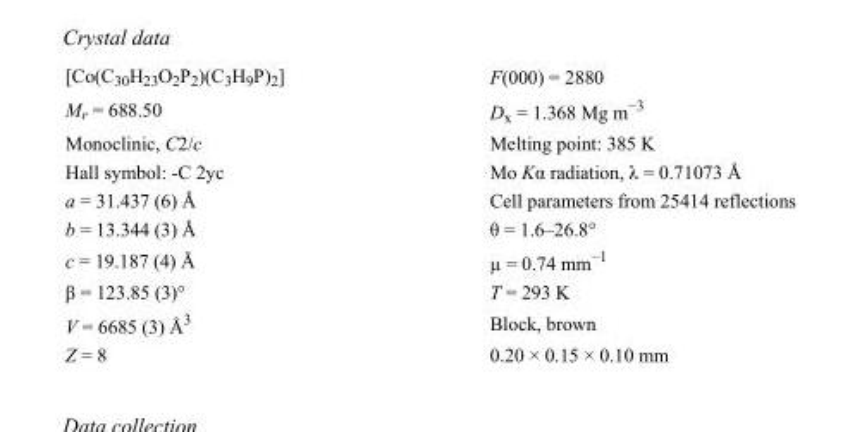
<table><tbody><tr><td>[Co(C<sub>30</sub>H<sub>23</sub>O<sub>2</sub>P<sub>2</sub>)(C<sub>3</sub>H<sub>9</sub>P)<sub>2</sub>]</td><td>F(000) = 2880</td></tr><tr><td>M<sub>r</sub> = 688.50</td><td>D<sub>x</sub> = 1.368 Mg m<sup>−3</sup></td></tr><tr><td>Monoclinic, C2/c</td><td>Melting point: 385 K</td></tr><tr><td>Hall symbol: -C 2yc</td><td>Mo Kα radiation, λ = 0.71073 Å</td></tr><tr><td>a = 31.437 (6) Å</td><td>Cell parameters from 25414 reflections</td></tr><tr><td>b = 13.344 (3) Å</td><td>θ = 1.6–26.8°</td></tr><tr><td>c = 19.187 (4) Å</td><td>µ = 0.74 mm<sup>−1</sup></td></tr><tr><td>β = 123.85 (3)°</td><td>T = 293 K</td></tr><tr><td>V = 6685 (3) Å<sup>3</sup></td><td>Block, brown</td></tr><tr><td>Z = 8</td><td>0.20 × 0.15 × 0.10 mm</td></tr></tbody></table>